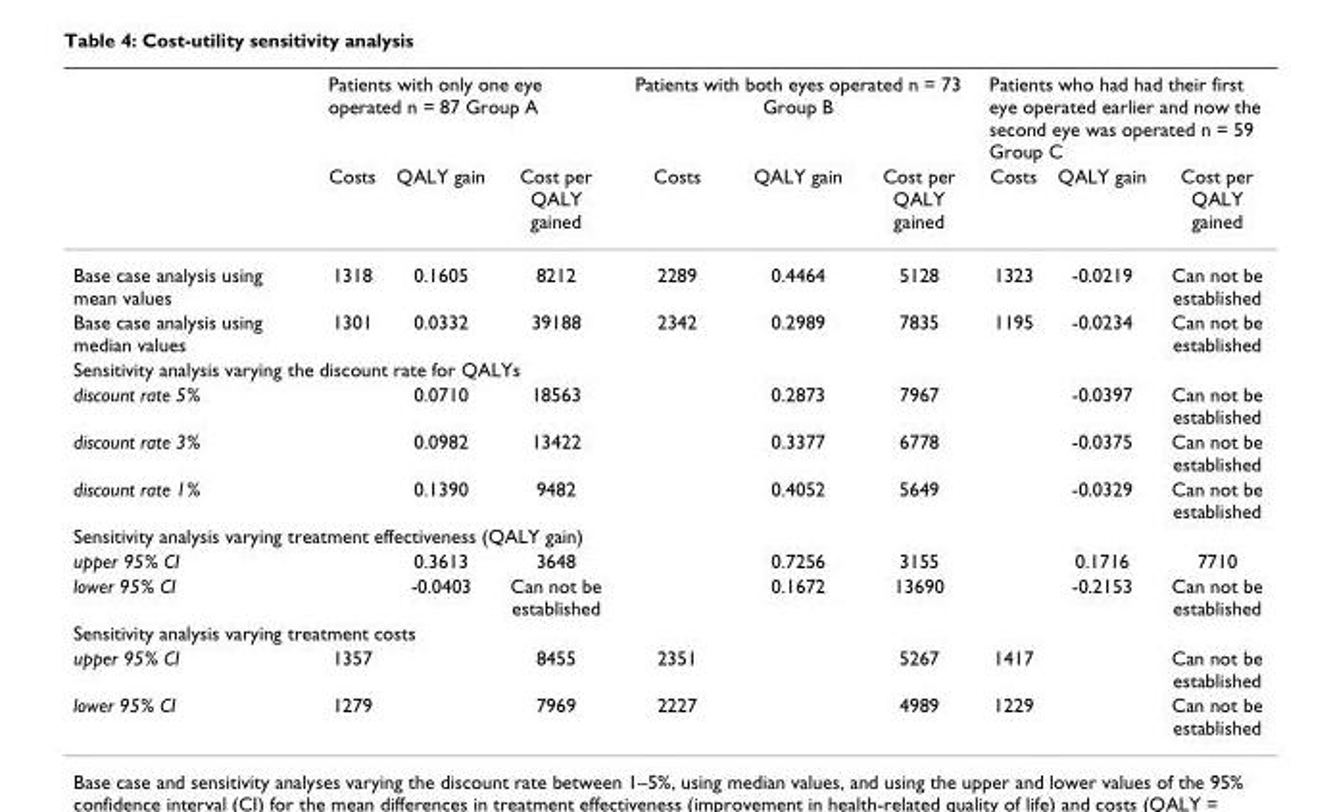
<table><thead><tr><td rowspan="2"></td><td colspan="3">Patients with only one eye operated n = 87 Group A</td><td colspan="3">Patients with both eyes operated n = 73 Group B</td><td colspan="3">Patients who had had their first eye operated earlier and now the second eye was operated n = 59 Group C</td></tr><tr><td>Costs</td><td>QALY gain</td><td>Cost per QALY gained</td><td>Costs</td><td>QALY gain</td><td>Cost per QALY gained</td><td>Costs</td><td>QALY gain</td><td>Cost per QALY gained</td></tr></thead><tbody><tr><td>Base case analysis using mean values</td><td>1318</td><td>0.1605</td><td>8212</td><td>2289</td><td>0.4464</td><td>5128</td><td>1323</td><td>-0.0219</td><td>Can not be established</td></tr><tr><td>Base case analysis using median values</td><td>1301</td><td>0.0332</td><td>39188</td><td>2342</td><td>0.2989</td><td>7835</td><td>1195</td><td>-0.0234</td><td>Can not be established</td></tr><tr><td colspan="10">Sensitivity analysis varying the discount rate for QALYs</td></tr><tr><td>discount rate 5%</td><td></td><td>0.0710</td><td>18563</td><td></td><td>0.2873</td><td>7967</td><td></td><td>-0.0397</td><td>Can not be established</td></tr><tr><td>discount rate 3%</td><td></td><td>0.0982</td><td>13422</td><td></td><td>0.3377</td><td>6778</td><td></td><td>-0.0375</td><td>Can not be established</td></tr><tr><td>discount rate 1%</td><td></td><td>0.1390</td><td>9482</td><td></td><td>0.4052</td><td>5649</td><td></td><td>-0.0329</td><td>Can not be established</td></tr><tr><td colspan="10">Sensitivity analysis varying treatment effectiveness (QALY gain)</td></tr><tr><td>upper 95% CI</td><td></td><td>0.3613</td><td>3648</td><td></td><td>0.7256</td><td>3155</td><td></td><td>0.1716</td><td>7710</td></tr><tr><td>lower 95% CI</td><td></td><td>-0.0403</td><td>Can not be established</td><td></td><td>0.1672</td><td>13690</td><td></td><td>-0.2153</td><td>Can not be established</td></tr><tr><td colspan="10">Sensitivity analysis varying treatment costs</td></tr><tr><td>upper 95% CI</td><td>1357</td><td></td><td>8455</td><td>2351</td><td></td><td>5267</td><td>1417</td><td></td><td>Can not be established</td></tr><tr><td>lower 95% CI</td><td>1279</td><td></td><td>7969</td><td>2227</td><td></td><td>4989</td><td>1229</td><td></td><td>Can not be established</td></tr></tbody></table>